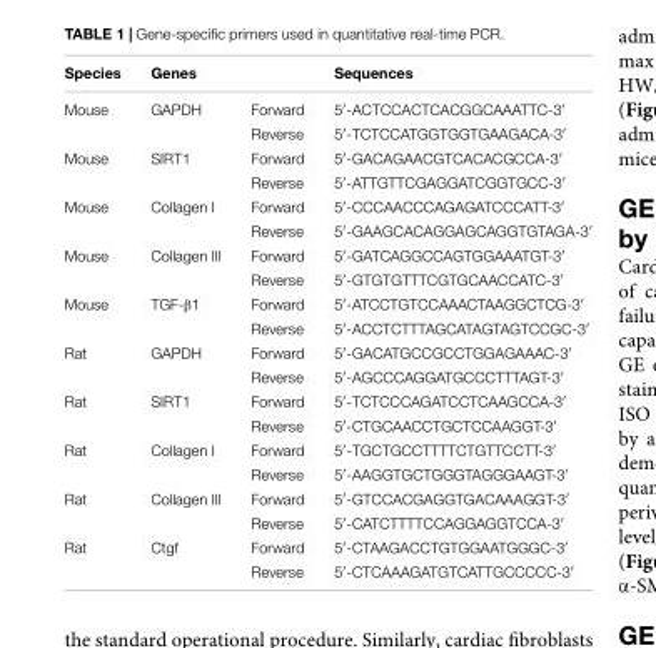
<table><thead><tr><td>Species</td><td>Genes</td><td></td><td>Sequences</td></tr></thead><tbody><tr><td rowspan="2">Mouse</td><td>GAPDH</td><td>Forward</td><td>5′-ACTCCACTCACGGCAAATTC-3′</td></tr><tr><td></td><td>Reverse</td><td>5′-TCTCCATGGTGGTGAAGACA-3′</td></tr><tr><td rowspan="2">Mouse</td><td>SIRT1</td><td>Forward</td><td>5′-GACAGAACGTCACACGCCA-3′</td></tr><tr><td></td><td>Reverse</td><td>5′-ATTGTTCGAGGATCGGTGCC-3′</td></tr><tr><td rowspan="2">Mouse</td><td>Collagen I</td><td>Forward</td><td>5′-CCCAACCCAGAGATCCCATT-3′</td></tr><tr><td></td><td>Reverse</td><td>5′-GAAGCACAGGAGCAGGTGTAGA-3′</td></tr><tr><td rowspan="2">Mouse</td><td>Collagen III</td><td>Forward</td><td>5′-GATCAGGCCAGTGGAAATGT-3′</td></tr><tr><td></td><td>Reverse</td><td>5′-GTGTGTTTCGTGCAACCATC-3′</td></tr><tr><td rowspan="2">Mouse</td><td>TGF-β1</td><td>Forward</td><td>5′-ATCCTGTCCAAACTAAGGCTCG-3′</td></tr><tr><td></td><td>Reverse</td><td>5′-ACCTCTTTAGCATAGTAGTCCGC-3′</td></tr><tr><td rowspan="2">Rat</td><td>GAPDH</td><td>Forward</td><td>5′-GACATGCCGCCTGGAGAAAC-3′</td></tr><tr><td></td><td>Reverse</td><td>5′-AGCCCAGGATGCCCTTTAGT-3′</td></tr><tr><td rowspan="2">Rat</td><td>SIRT1</td><td>Forward</td><td>5′-TCTCCCAGATCCTCAAGCCA-3′</td></tr><tr><td></td><td>Reverse</td><td>5′-CTGCAACCTGCTCCAAGGT-3′</td></tr><tr><td rowspan="2">Rat</td><td>Collagen I</td><td>Forward</td><td>5′-TGCTGCCTTTTCTGTTCCTT-3′</td></tr><tr><td></td><td>Reverse</td><td>5′-AAGGTGCTGGGTAGGGAAGT-3′</td></tr><tr><td rowspan="2">Rat</td><td>Collagen III</td><td>Forward</td><td>5′-GTCCACGAGGTGACAAAGGT-3′</td></tr><tr><td></td><td>Reverse</td><td>5′-CATCTTTTCCAGGAGGTCCA-3′</td></tr><tr><td rowspan="2">Rat</td><td>Ctgf</td><td>Forward</td><td>5′-CTAAGACCTGTGGAATGGGC-3′</td></tr><tr><td></td><td>Reverse</td><td>5′-CTCAAAGATGTCATTGCCCCC-3′</td></tr></tbody></table>